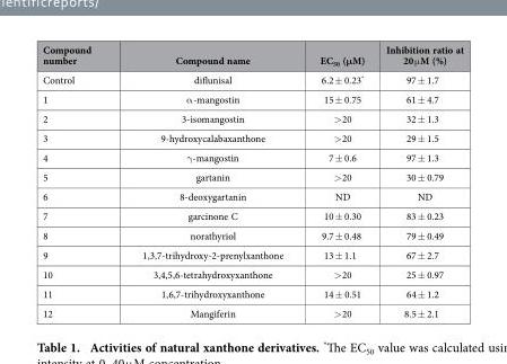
<table><thead><tr><td>Compound number</td><td>Compound name</td><td>EC<sub>50</sub> (μM)</td><td>Inhibition ratio at 20 μ M (%)</td></tr></thead><tbody><tr><td>Control</td><td>diflunisal</td><td>6.2 ± 0.23*</td><td>97 ± 1.7</td></tr><tr><td>1</td><td>α -mangostin</td><td>15 ± 0.75</td><td>61 ± 4.7</td></tr><tr><td>2</td><td>3-isomangostin</td><td>&gt; 20</td><td>32 ± 1.3</td></tr><tr><td>3</td><td>9-hydroxycalabaxanthone</td><td>&gt; 20</td><td>29 ± 1.5</td></tr><tr><td>4</td><td>γ -mangostin</td><td>7 ± 0.6</td><td>97 ± 1.3</td></tr><tr><td>5</td><td>gartanin</td><td>&gt; 20</td><td>30 ± 0.79</td></tr><tr><td>6</td><td>8-deoxygartanin</td><td>ND</td><td>ND</td></tr><tr><td>7</td><td>garcinone C</td><td>10 ± 0.30</td><td>83 ± 0.23</td></tr><tr><td>8</td><td>norathyriol</td><td>9.7 ± 0.48</td><td>79 ± 0.49</td></tr><tr><td>9</td><td>1,3,7-trihydroxy-2-prenylxanthone</td><td>13 ± 1.1</td><td>67 ± 2.7</td></tr><tr><td>10</td><td>3,4,5,6-tetrahydroxyxanthone</td><td>&gt; 20</td><td>25 ± 0.97</td></tr><tr><td>11</td><td>1,6,7-trihydroxyxanthone</td><td>14 ± 0.51</td><td>64 ± 1.2</td></tr><tr><td>12</td><td>Mangiferin</td><td>&gt; 20</td><td>8.5 ± 2.1</td></tr></tbody></table>